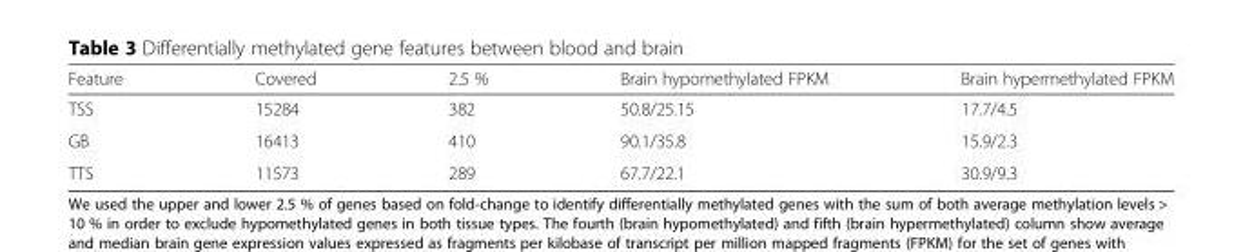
<table><thead><tr><td>Feature</td><td>Covered</td><td>2.5 %</td><td>Brain hypomethylated FPKM</td><td>Brain hypermethylated FPKM</td></tr></thead><tbody><tr><td>TSS</td><td>15284</td><td>382</td><td>50.8/25.15</td><td>17.7/4.5</td></tr><tr><td>GB</td><td>16413</td><td>410</td><td>90.1/35.8</td><td>15.9/2.3</td></tr><tr><td>TTS</td><td>11573</td><td>289</td><td>67.7/22.1</td><td>30.9/9.3</td></tr></tbody></table>